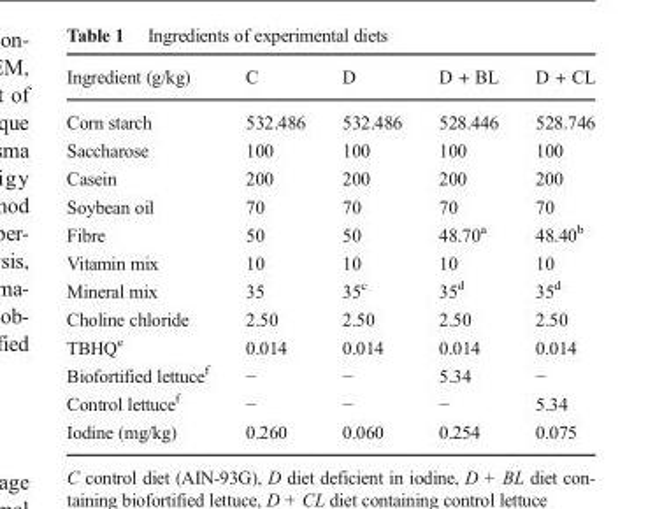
<table><thead><tr><td>Ingredient (g/kg)</td><td>C</td><td>D</td><td>D + BL</td><td>D + CL</td></tr></thead><tbody><tr><td>Corn starch</td><td>532.486</td><td>532.486</td><td>528.446</td><td>528.746</td></tr><tr><td>Saccharose</td><td>100</td><td>100</td><td>100</td><td>100</td></tr><tr><td>Casein</td><td>200</td><td>200</td><td>200</td><td>200</td></tr><tr><td>Soybean oil</td><td>70</td><td>70</td><td>70</td><td>70</td></tr><tr><td>Fibre</td><td>50</td><td>50</td><td>48.70<sup>a</sup></td><td>48.40<sup>b</sup></td></tr><tr><td>Vitamin mix</td><td>10</td><td>10</td><td>10</td><td>10</td></tr><tr><td>Mineral mix</td><td>35</td><td>35<sup>c</sup></td><td>35<sup>d</sup></td><td>35<sup>d</sup></td></tr><tr><td>Choline chloride</td><td>2.50</td><td>2.50</td><td>2.50</td><td>2.50</td></tr><tr><td>TBHQ<sup>e</sup></td><td>0.014</td><td>0.014</td><td>0.014</td><td>0.014</td></tr><tr><td>Biofortified lettuce<sup>f</sup></td><td>−</td><td>−</td><td>5.34</td><td>−</td></tr><tr><td>Control lettuce<sup>f</sup></td><td>−</td><td>−</td><td>−</td><td>5.34</td></tr><tr><td>Iodine (mg/kg)</td><td>0.260</td><td>0.060</td><td>0.254</td><td>0.075</td></tr></tbody></table>